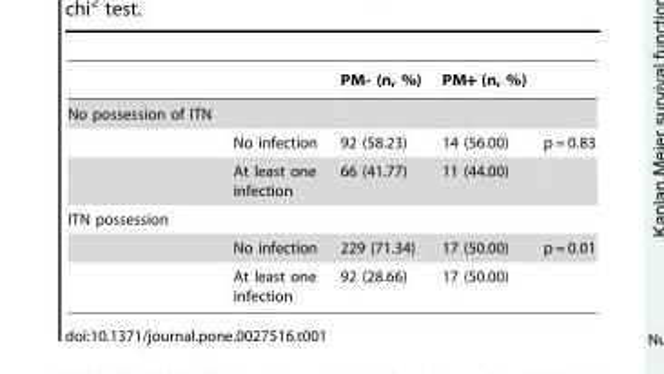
<table><thead><tr><td></td><td></td><td>PM- (n, %)</td><td>PM+ (n, %)</td><td></td></tr></thead><tbody><tr><td colspan="5">No possession of ITN</td></tr><tr><td></td><td>No infection</td><td>92 (58.23)</td><td>14 (56.00)</td><td>p = 0.83</td></tr><tr><td></td><td>At least one infection</td><td>66 (41.77)</td><td>11 (44.00)</td><td></td></tr><tr><td colspan="5">ITN possession</td></tr><tr><td></td><td>No infection</td><td>229 (71.34)</td><td>17 (50.00)</td><td>p = 0.01</td></tr><tr><td></td><td>At least one infection</td><td>92 (28.66)</td><td>17 (50.00)</td><td></td></tr></tbody></table>